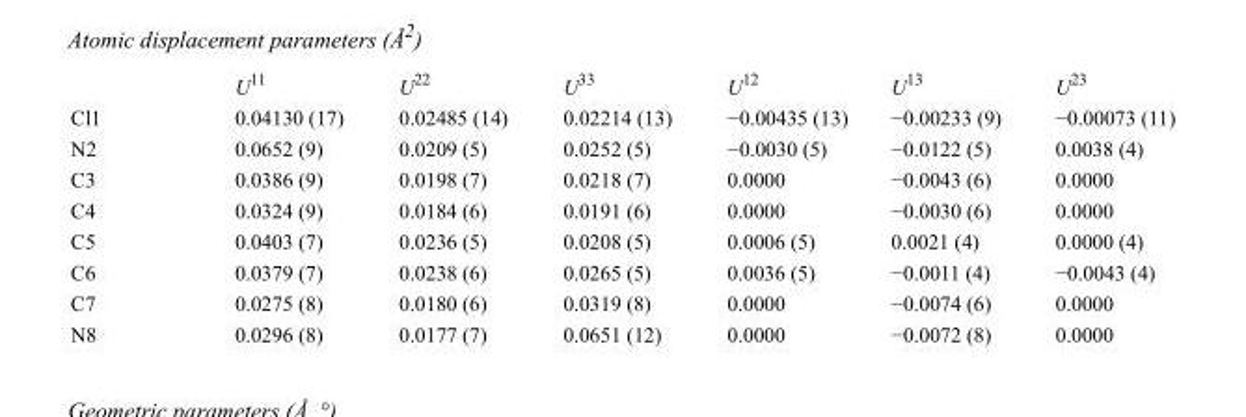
<table><thead><tr><td></td><td>U<sup>11</sup></td><td>U<sup>22</sup></td><td>U<sup>33</sup></td><td>U<sup>12</sup></td><td>U<sup>13</sup></td><td>U<sup>23</sup></td></tr></thead><tbody><tr><td>Cl1</td><td>0.04130 (17)</td><td>0.02485 (14)</td><td>0.02214 (13)</td><td>−0.00435 (13)</td><td>−0.00233 (9)</td><td>−0.00073 (11)</td></tr><tr><td>N2</td><td>0.0652 (9)</td><td>0.0209 (5)</td><td>0.0252 (5)</td><td>−0.0030 (5)</td><td>−0.0122 (5)</td><td>0.0038 (4)</td></tr><tr><td>C3</td><td>0.0386 (9)</td><td>0.0198 (7)</td><td>0.0218 (7)</td><td>0.0000</td><td>−0.0043 (6)</td><td>0.0000</td></tr><tr><td>C4</td><td>0.0324 (9)</td><td>0.0184 (6)</td><td>0.0191 (6)</td><td>0.0000</td><td>−0.0030 (6)</td><td>0.0000</td></tr><tr><td>C5</td><td>0.0403 (7)</td><td>0.0236 (5)</td><td>0.0208 (5)</td><td>0.0006 (5)</td><td>0.0021 (4)</td><td>0.0000 (4)</td></tr><tr><td>C6</td><td>0.0379 (7)</td><td>0.0238 (6)</td><td>0.0265 (5)</td><td>0.0036 (5)</td><td>−0.0011 (4)</td><td>−0.0043 (4)</td></tr><tr><td>C7</td><td>0.0275 (8)</td><td>0.0180 (6)</td><td>0.0319 (8)</td><td>0.0000</td><td>−0.0074 (6)</td><td>0.0000</td></tr><tr><td>N8</td><td>0.0296 (8)</td><td>0.0177 (7)</td><td>0.0651 (12)</td><td>0.0000</td><td>−0.0072 (8)</td><td>0.0000</td></tr></tbody></table>